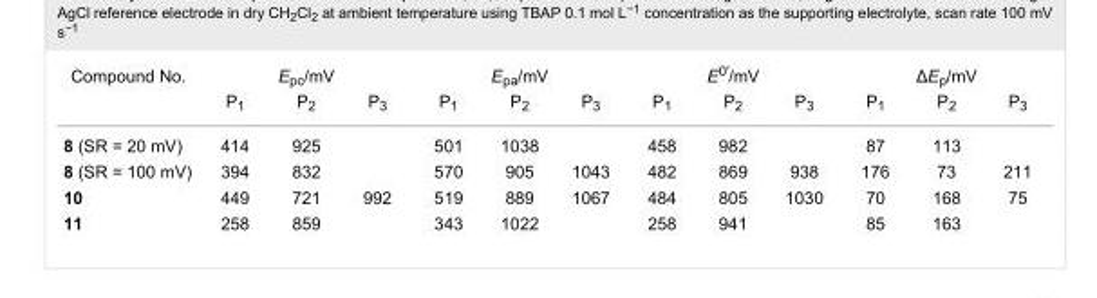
<table><tbody><tr><td rowspan="2">Compound No.</td><td colspan="3">E<sub>pc</sub>/mV</td><td colspan="3">E<sub>pa</sub>/mV</td><td colspan="3">E<sup>0′</sup>/mV</td><td colspan="3">ΔE<sub>p</sub>/mV</td></tr><tr><td>P<sub>1</sub></td><td>P<sub>2</sub></td><td>P<sub>3</sub></td><td>P<sub>1</sub></td><td>P<sub>2</sub></td><td>P<sub>3</sub></td><td>P<sub>1</sub></td><td>P<sub>2</sub></td><td>P<sub>3</sub></td><td>P<sub>1</sub></td><td>P<sub>2</sub></td><td>P<sub>3</sub></td></tr><tr><td>8 (SR = 20 mV)</td><td>414</td><td>925</td><td></td><td>501</td><td>1038</td><td></td><td>458</td><td>982</td><td></td><td>87</td><td>113</td><td></td></tr><tr><td>8 (SR = 100 mV)</td><td>394</td><td>832</td><td></td><td>570</td><td>905</td><td>1043</td><td>482</td><td>869</td><td>938</td><td>176</td><td>73</td><td>211</td></tr><tr><td>10</td><td>449</td><td>721</td><td>992</td><td>519</td><td>889</td><td>1067</td><td>484</td><td>805</td><td>1030</td><td>70</td><td>168</td><td>75</td></tr><tr><td>11</td><td>258</td><td>859</td><td></td><td>343</td><td>1022</td><td></td><td>258</td><td>941</td><td></td><td>85</td><td>163</td><td></td></tr></tbody></table>